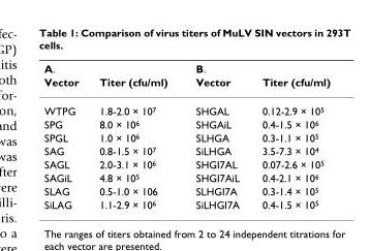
<table><thead><tr><td rowspan="2">cells. A. Vector</td><td rowspan="2">Titer (cfu/ml)</td><td rowspan="2">B. Vector</td><td rowspan="2">Titer (cfu/ml)</td></tr><tr></tr></thead><tbody><tr><td>WTPG</td><td>1.8-2.0 × 10<sup>7</sup></td><td>SHGAL</td><td>0.12-2.9 × 10<sup>5</sup></td></tr><tr><td>SPG</td><td>8.0 × 10<sup>6</sup></td><td>SHGAiL</td><td>0.4-1.5 × 10<sup>6</sup></td></tr><tr><td>SPGL</td><td>1.0 × 10<sup>6</sup></td><td>SLHGA</td><td>0.3-1.1 × 10<sup>5</sup></td></tr><tr><td>SAG</td><td>0.8-1.5 × 10<sup>7</sup></td><td>SiLHGA</td><td>3.5-7.3 × 10<sup>4</sup></td></tr><tr><td>SAGL</td><td>2.0-3.1 × 10<sup>6</sup></td><td>SHGI7AL</td><td>0.07-2.6 × 10<sup>5</sup></td></tr><tr><td>SAGiL</td><td>4.8 × 10<sup>5</sup></td><td>SHGI7AiL</td><td>0.4-2.1 × 10<sup>6</sup></td></tr><tr><td>SLAG</td><td>0.5-1.0 × 106</td><td>SLHGI7A</td><td>0.3-1.4 × 10<sup>5</sup></td></tr><tr><td>SiLAG</td><td>1.1-2.9 × 10<sup>6</sup></td><td>SiLHGI7A</td><td>0.4-1.5 × 10<sup>5</sup></td></tr></tbody></table>